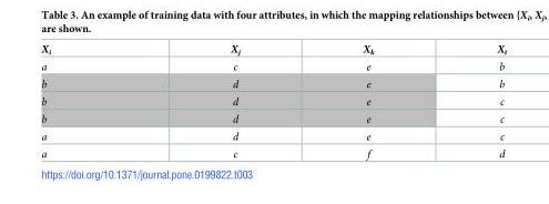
<table><thead><tr><td>X<sub>i</sub></td><td>X<sub>j</sub></td><td>X<sub>k</sub></td><td>X<sub>t</sub></td></tr></thead><tbody><tr><td>a</td><td>c</td><td>e</td><td>b</td></tr><tr><td>b</td><td>d</td><td>e</td><td>b</td></tr><tr><td>b</td><td>d</td><td>e</td><td>c</td></tr><tr><td>b</td><td>d</td><td>e</td><td>c</td></tr><tr><td>a</td><td>d</td><td>e</td><td>c</td></tr><tr><td>a</td><td>c</td><td>f</td><td>d</td></tr></tbody></table>